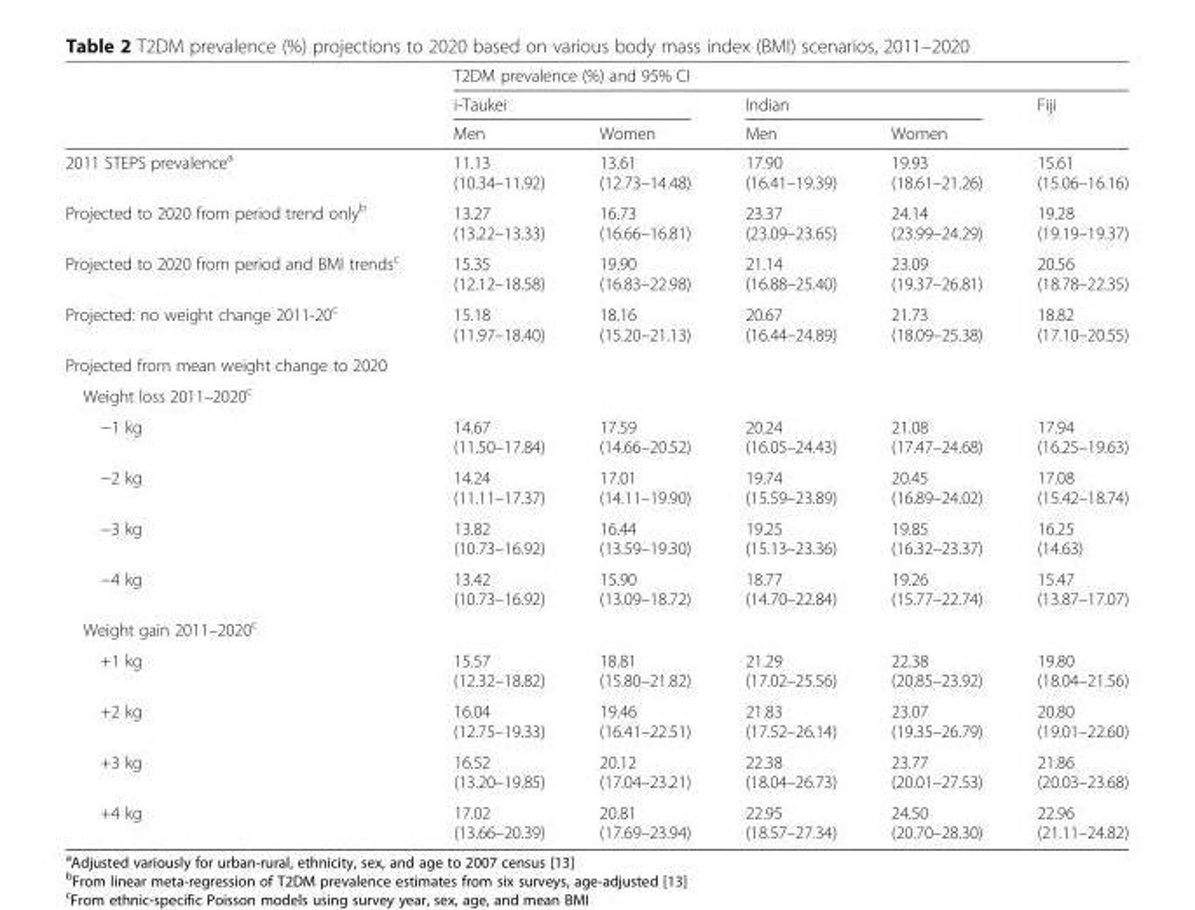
<table><thead><tr><td rowspan="3"></td><td colspan="5">T2DM prevalence (%) and 95% CI</td></tr><tr><td colspan="2">i-Taukei</td><td colspan="2">Indian</td><td rowspan="2">Fiji</td></tr><tr><td>Men</td><td>Women</td><td>Men</td><td>Women</td></tr></thead><tbody><tr><td>2011 STEPS prevalence<sup>a</sup></td><td>11.13 (10.34–11.92)</td><td>13.61 (12.73–14.48)</td><td>17.90 (16.41–19.39)</td><td>19.93 (18.61–21.26)</td><td>15.61 (15.06–16.16)</td></tr><tr><td>Projected to 2020 from period trend only<sup>b</sup></td><td>13.27 (13.22–13.33)</td><td>16.73 (16.66–16.81)</td><td>23.37 (23.09–23.65)</td><td>24.14 (23.99–24.29)</td><td>19.28 (19.19–19.37)</td></tr><tr><td>Projected to 2020 from period and BMI trends<sup>c</sup></td><td>15.35 (12.12–18.58)</td><td>19.90 (16.83–22.98)</td><td>21.14 (16.88–25.40)</td><td>23.09 (19.37–26.81)</td><td>20.56 (18.78–22.35)</td></tr><tr><td>Projected: no weight change 2011-20<sup>c</sup></td><td>15.18 (11.97–18.40)</td><td>18.16 (15.20–21.13)</td><td>20.67 (16.44–24.89)</td><td>21.73 (18.09–25.38)</td><td>18.82 (17.10–20.55)</td></tr><tr><td colspan="6">Projected from mean weight change to 2020</td></tr><tr><td colspan="6">Weight loss 2011–2020<sup>c</sup></td></tr><tr><td>−1 kg</td><td>14.67 (11.50–17.84)</td><td>17.59 (14.66–20.52)</td><td>20.24 (16.05–24.43)</td><td>21.08 (17.47–24.68)</td><td>17.94 (16.25–19.63)</td></tr><tr><td>−2 kg</td><td>14.24 (11.11–17.37)</td><td>17.01 (14.11–19.90)</td><td>19.74 (15.59–23.89)</td><td>20.45 (16.89–24.02)</td><td>17.08 (15.42–18.74)</td></tr><tr><td>−3 kg</td><td>13.82 (10.73–16.92)</td><td>16.44 (13.59–19.30)</td><td>19.25 (15.13–23.36)</td><td>19.85 (16.32–23.37)</td><td>16.25 (14.63)</td></tr><tr><td>−4 kg</td><td>13.42 (10.73–16.92)</td><td>15.90 (13.09–18.72)</td><td>18.77 (14.70–22.84)</td><td>19.26 (15.77–22.74)</td><td>15.47 (13.87–17.07)</td></tr><tr><td colspan="6">Weight gain 2011–2020<sup>c</sup></td></tr><tr><td>+1 kg</td><td>15.57 (12.32–18.82)</td><td>18.81 (15.80–21.82)</td><td>21.29 (17.02–25.56)</td><td>22.38 (20.85–23.92)</td><td>19.80 (18.04–21.56)</td></tr><tr><td>+2 kg</td><td>16.04 (12.75–19.33)</td><td>19.46 (16.41–22.51)</td><td>21.83 (17.52–26.14)</td><td>23.07 (19.35–26.79)</td><td>20.80 (19.01–22.60)</td></tr><tr><td>+3 kg</td><td>16.52 (13.20–19.85)</td><td>20.12 (17.04–23.21)</td><td>22.38 (18.04–26.73)</td><td>23.77 (20.01–27.53)</td><td>21.86 (20.03–23.68)</td></tr><tr><td>+4 kg</td><td>17.02 (13.66–20.39)</td><td>20.81 (17.69–23.94)</td><td>22.95 (18.57–27.34)</td><td>24.50 (20.70–28.30)</td><td>22.96 (21.11–24.82)</td></tr></tbody></table>